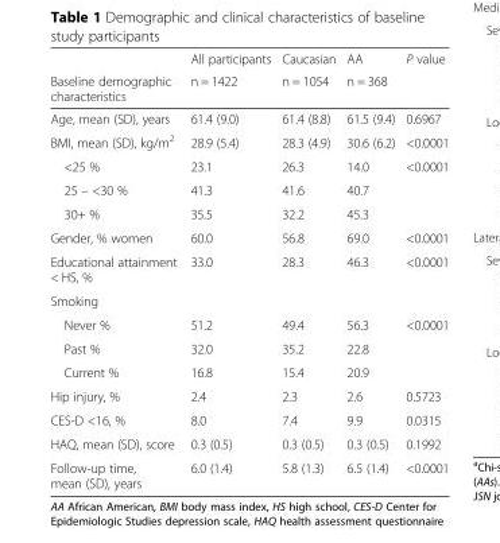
<table><thead><tr><td rowspan="2">Baseline demographic characteristics</td><td rowspan="2">All participants n = 1422</td><td rowspan="2">Caucasian n = 1054</td><td rowspan="2">AA n = 368</td><td rowspan="2">P value</td></tr><tr></tr></thead><tbody><tr><td>Age, mean (SD), years</td><td>61.4 (9.0)</td><td>61.4 (8.8)</td><td>61.5 (9.4)</td><td>0.6967</td></tr><tr><td>BMI, mean (SD), kg/m<sup>2</sup></td><td>28.9 (5.4)</td><td>28.3 (4.9)</td><td>30.6 (6.2)</td><td>&lt;0.0001</td></tr><tr><td>&lt;25 %</td><td>23.1</td><td>26.3</td><td>14.0</td><td>&lt;0.0001</td></tr><tr><td>25 – &lt;30 %</td><td>41.3</td><td>41.6</td><td>40.7</td><td></td></tr><tr><td>30+ %</td><td>35.5</td><td>32.2</td><td>45.3</td><td></td></tr><tr><td>Gender, % women</td><td>60.0</td><td>56.8</td><td>69.0</td><td>&lt;0.0001</td></tr><tr><td>Educational attainment &lt; HS, %</td><td>33.0</td><td>28.3</td><td>46.3</td><td>&lt;0.0001</td></tr><tr><td colspan="5">Smoking</td></tr><tr><td>Never %</td><td>51.2</td><td>49.4</td><td>56.3</td><td>&lt;0.0001</td></tr><tr><td>Past %</td><td>32.0</td><td>35.2</td><td>22.8</td><td></td></tr><tr><td>Current %</td><td>16.8</td><td>15.4</td><td>20.9</td><td></td></tr><tr><td>Hip injury, %</td><td>2.4</td><td>2.3</td><td>2.6</td><td>0.5723</td></tr><tr><td>CES-D &lt;16, %</td><td>8.0</td><td>7.4</td><td>9.9</td><td>0.0315</td></tr><tr><td>HAQ, mean (SD), score</td><td>0.3 (0.5)</td><td>0.3 (0.5)</td><td>0.3 (0.5)</td><td>0.1992</td></tr><tr><td>Follow-up time, mean (SD), years</td><td>6.0 (1.4)</td><td>5.8 (1.3)</td><td>6.5 (1.4)</td><td>&lt;0.0001</td></tr></tbody></table>